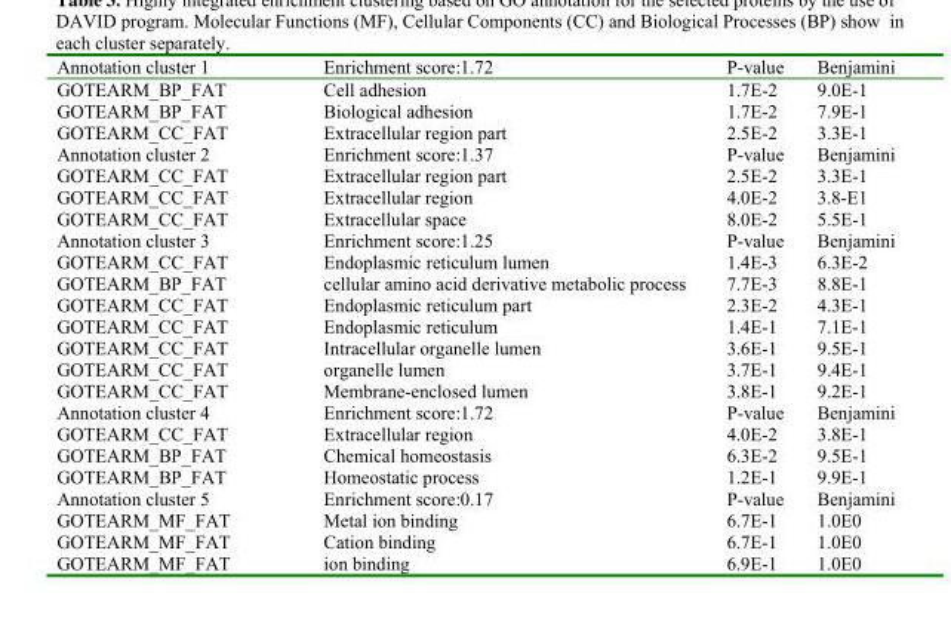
<table><thead><tr><td>Benjamini</td><td>P-value</td><td>Enrichment score:1.72</td><td>Annotation cluster 1</td></tr></thead><tbody><tr><td>9.0E-1</td><td>1.7E-2</td><td>Cell adhesion</td><td>GOTEARM_BP_FAT</td></tr><tr><td>7.9E-1</td><td>1.7E-2</td><td>Biological adhesion</td><td>GOTEARM_BP_FAT</td></tr><tr><td>3.3E-1</td><td>2.5E-2</td><td>Extracellular region part</td><td>GOTEARM_CC_FAT</td></tr><tr><td>Benjamini</td><td>P-value</td><td>Enrichment score:1.37</td><td>Annotation cluster 2</td></tr><tr><td>3.3E-1</td><td>2.5E-2</td><td>Extracellular region part</td><td>GOTEARM_CC_FAT</td></tr><tr><td>3.8-E1</td><td>4.0E-2</td><td>Extracellular region</td><td>GOTEARM_CC_FAT</td></tr><tr><td>5.5E-1</td><td>8.0E-2</td><td>Extracellular space</td><td>GOTEARM_CC_FAT</td></tr><tr><td>Benjamini</td><td>P-value</td><td>Enrichment score:1.25</td><td>Annotation cluster 3</td></tr><tr><td>6.3E-2</td><td>1.4E-3</td><td>Endoplasmic reticulum lumen</td><td>GOTEARM_CC_FAT</td></tr><tr><td>8.8E-1</td><td>7.7E-3</td><td>cellular amino acid derivative metabolic process</td><td>GOTEARM_BP_FAT</td></tr><tr><td>4.3E-1</td><td>2.3E-2</td><td>Endoplasmic reticulum part</td><td>GOTEARM_CC_FAT</td></tr><tr><td>7.1E-1</td><td>1.4E-1</td><td>Endoplasmic reticulum</td><td>GOTEARM_CC_FAT</td></tr><tr><td>9.5E-1</td><td>3.6E-1</td><td>Intracellular organelle lumen</td><td>GOTEARM_CC_FAT</td></tr><tr><td>9.4E-1</td><td>3.7E-1</td><td>organelle lumen</td><td>GOTEARM_CC_FAT</td></tr><tr><td>9.2E-1</td><td>3.8E-1</td><td>Membrane-enclosed lumen</td><td>GOTEARM_CC_FAT</td></tr><tr><td>Benjamini</td><td>P-value</td><td>Enrichment score:1.72</td><td>Annotation cluster 4</td></tr><tr><td>3.8E-1</td><td>4.0E-2</td><td>Extracellular region</td><td>GOTEARM_CC_FAT</td></tr><tr><td>9.5E-1</td><td>6.3E-2</td><td>Chemical homeostasis</td><td>GOTEARM_BP_FAT</td></tr><tr><td>9.9E-1</td><td>1.2E-1</td><td>Homeostatic process</td><td>GOTEARM_BP_FAT</td></tr><tr><td>Benjamini</td><td>P-value</td><td>Enrichment score:0.17</td><td>Annotation cluster 5</td></tr><tr><td>1.0E0</td><td>6.7E-1</td><td>Metal ion binding</td><td>GOTEARM_MF_FAT</td></tr><tr><td>1.0E0</td><td>6.7E-1</td><td>Cation binding</td><td>GOTEARM_MF_FAT</td></tr><tr><td>1.0E0</td><td>6.9E-1</td><td>ion binding</td><td>GOTEARM_MF_FAT</td></tr></tbody></table>